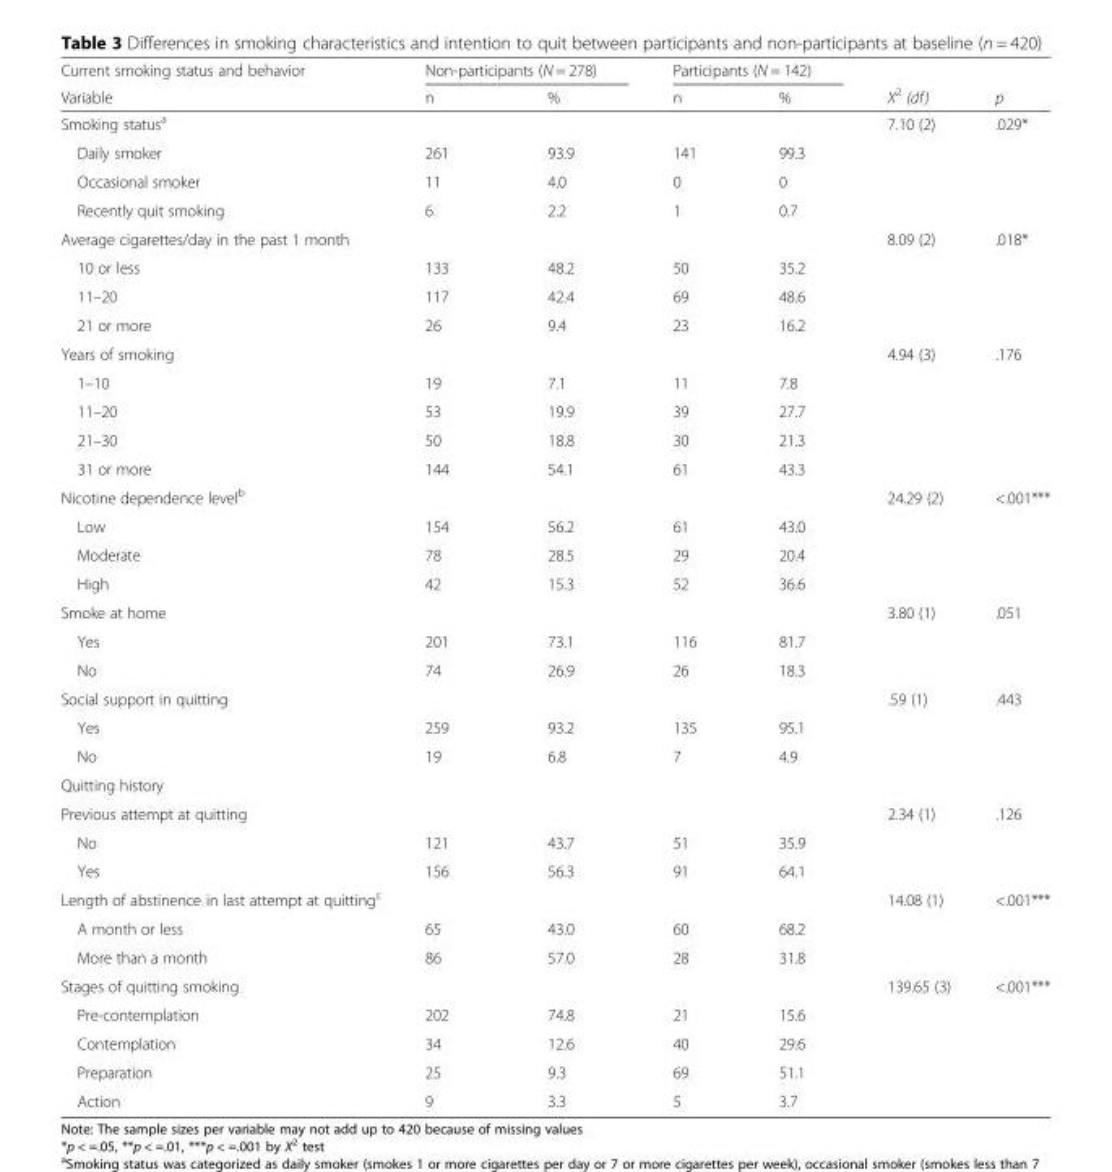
<table><thead><tr><td rowspan="2">Current smoking status and behavior Variable</td><td colspan="2">Non-participants (N = 278)</td><td colspan="2">Participants (N = 142)</td><td rowspan="2">X<sup>2</sup> (df)</td><td rowspan="2">p</td></tr><tr><td>n</td><td>%</td><td>n</td><td>%</td></tr></thead><tbody><tr><td>Smoking status<sup>a</sup></td><td></td><td></td><td></td><td></td><td>7.10 (2)</td><td>.029*</td></tr><tr><td>Daily smoker</td><td>261</td><td>93.9</td><td>141</td><td>99.3</td><td></td><td></td></tr><tr><td>Occasional smoker</td><td>11</td><td>4.0</td><td>0</td><td>0</td><td></td><td></td></tr><tr><td>Recently quit smoking</td><td>6</td><td>2.2</td><td>1</td><td>0.7</td><td></td><td></td></tr><tr><td>Average cigarettes/day in the past 1 month</td><td></td><td></td><td></td><td></td><td>8.09 (2)</td><td>.018*</td></tr><tr><td>10 or less</td><td>133</td><td>48.2</td><td>50</td><td>35.2</td><td></td><td></td></tr><tr><td>11–20</td><td>117</td><td>42.4</td><td>69</td><td>48.6</td><td></td><td></td></tr><tr><td>21 or more</td><td>26</td><td>9.4</td><td>23</td><td>16.2</td><td></td><td></td></tr><tr><td>Years of smoking</td><td></td><td></td><td></td><td></td><td>4.94 (3)</td><td>.176</td></tr><tr><td>1–10</td><td>19</td><td>7.1</td><td>11</td><td>7.8</td><td></td><td></td></tr><tr><td>11–20</td><td>53</td><td>19.9</td><td>39</td><td>27.7</td><td></td><td></td></tr><tr><td>21–30</td><td>50</td><td>18.8</td><td>30</td><td>21.3</td><td></td><td></td></tr><tr><td>31 or more</td><td>144</td><td>54.1</td><td>61</td><td>43.3</td><td></td><td></td></tr><tr><td>Nicotine dependence level<sup>b</sup></td><td></td><td></td><td></td><td></td><td>24.29 (2)</td><td>&lt;.001***</td></tr><tr><td>Low</td><td>154</td><td>56.2</td><td>61</td><td>43.0</td><td></td><td></td></tr><tr><td>Moderate</td><td>78</td><td>28.5</td><td>29</td><td>20.4</td><td></td><td></td></tr><tr><td>High</td><td>42</td><td>15.3</td><td>52</td><td>36.6</td><td></td><td></td></tr><tr><td>Smoke at home</td><td></td><td></td><td></td><td></td><td>3.80 (1)</td><td>.051</td></tr><tr><td>Yes</td><td>201</td><td>73.1</td><td>116</td><td>81.7</td><td></td><td></td></tr><tr><td>No</td><td>74</td><td>26.9</td><td>26</td><td>18.3</td><td></td><td></td></tr><tr><td>Social support in quitting</td><td></td><td></td><td></td><td></td><td>.59 (1)</td><td>.443</td></tr><tr><td>Yes</td><td>259</td><td>93.2</td><td>135</td><td>95.1</td><td></td><td></td></tr><tr><td>No</td><td>19</td><td>6.8</td><td>7</td><td>4.9</td><td></td><td></td></tr><tr><td colspan="7">Quitting history</td></tr><tr><td>Previous attempt at quitting</td><td></td><td></td><td></td><td></td><td>2.34 (1)</td><td>.126</td></tr><tr><td>No</td><td>121</td><td>43.7</td><td>51</td><td>35.9</td><td></td><td></td></tr><tr><td>Yes</td><td>156</td><td>56.3</td><td>91</td><td>64.1</td><td></td><td></td></tr><tr><td>Length of abstinence in last attempt at quitting<sup>c</sup></td><td></td><td></td><td></td><td></td><td>14.08 (1)</td><td>&lt;.001***</td></tr><tr><td>A month or less</td><td>65</td><td>43.0</td><td>60</td><td>68.2</td><td></td><td></td></tr><tr><td>More than a month</td><td>86</td><td>57.0</td><td>28</td><td>31.8</td><td></td><td></td></tr><tr><td>Stages of quitting smoking</td><td></td><td></td><td></td><td></td><td>139.65 (3)</td><td>&lt;.001***</td></tr><tr><td>Pre-contemplation</td><td>202</td><td>74.8</td><td>21</td><td>15.6</td><td></td><td></td></tr><tr><td>Contemplation</td><td>34</td><td>12.6</td><td>40</td><td>29.6</td><td></td><td></td></tr><tr><td>Preparation</td><td>25</td><td>9.3</td><td>69</td><td>51.1</td><td></td><td></td></tr><tr><td>Action</td><td>9</td><td>3.3</td><td>5</td><td>3.7</td><td></td><td></td></tr></tbody></table>